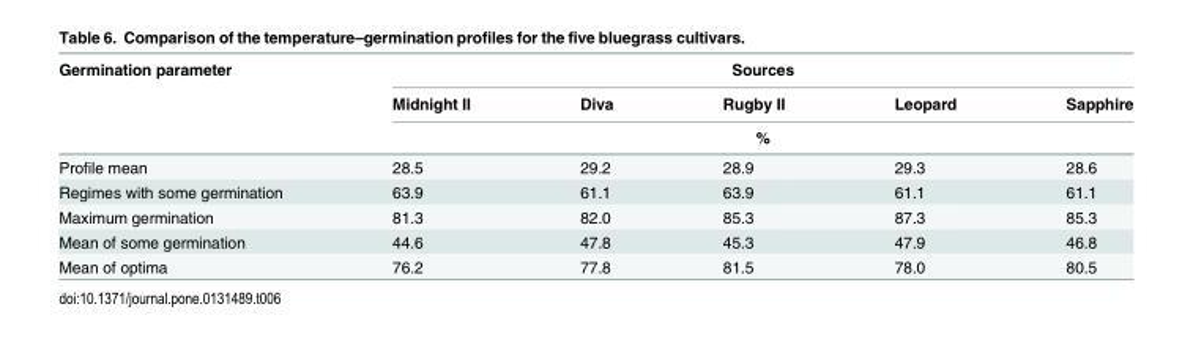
<table><thead><tr><td rowspan="3">Germination parameter</td><td colspan="5">Sources</td></tr><tr><td>Midnight II</td><td>Diva</td><td>Rugby II</td><td>Leopard</td><td>Sapphire</td></tr><tr><td colspan="5">%</td></tr></thead><tbody><tr><td>Profile mean</td><td>28.5</td><td>29.2</td><td>28.9</td><td>29.3</td><td>28.6</td></tr><tr><td>Regimes with some germination</td><td>63.9</td><td>61.1</td><td>63.9</td><td>61.1</td><td>61.1</td></tr><tr><td>Maximum germination</td><td>81.3</td><td>82.0</td><td>85.3</td><td>87.3</td><td>85.3</td></tr><tr><td>Mean of some germination</td><td>44.6</td><td>47.8</td><td>45.3</td><td>47.9</td><td>46.8</td></tr><tr><td>Mean of optima</td><td>76.2</td><td>77.8</td><td>81.5</td><td>78.0</td><td>80.5</td></tr></tbody></table>